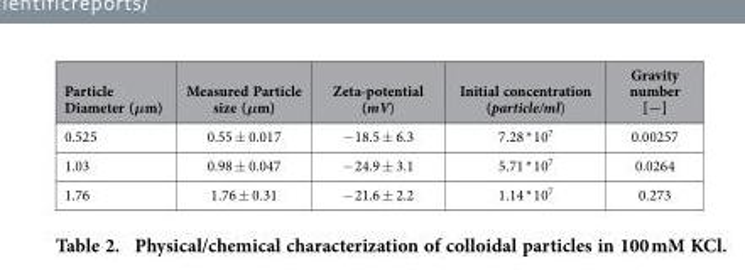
<table><thead><tr><td>Particle Diameter (μm)</td><td>Measured Particle size (μm)</td><td>Zeta-potential (mV)</td><td>Initial concentration (particle/ml)</td><td>Gravity number [−]</td></tr></thead><tbody><tr><td>0.525</td><td>0.55 ± 0.017</td><td>− 18.5 ± 6.3</td><td>7.28 * 10<sup>7</sup></td><td>0.00257</td></tr><tr><td>1.03</td><td>0.98 ± 0.047</td><td>− 24.9 ± 3.1</td><td>5.71 * 10<sup>7</sup></td><td>0.0264</td></tr><tr><td>1.76</td><td>1.76 ± 0.31</td><td>− 21.6 ± 2.2</td><td>1.14 * 10<sup>7</sup></td><td>0.273</td></tr></tbody></table>